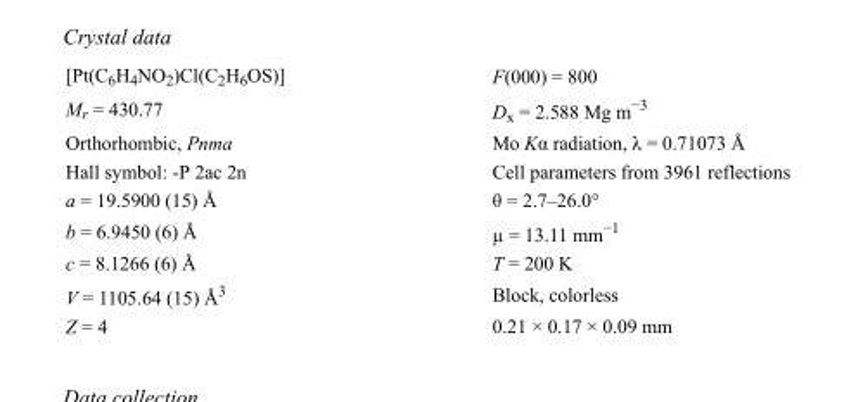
<table><tbody><tr><td>[Pt(C<sub>6</sub>H<sub>4</sub>NO<sub>2</sub>)Cl(C<sub>2</sub>H<sub>6</sub>OS)]</td><td>F(000) = 800</td></tr><tr><td>M<sub>r</sub> = 430.77</td><td>D<sub>x</sub> = 2.588 Mg m<sup>−3</sup></td></tr><tr><td>Orthorhombic, Pnma</td><td>Mo Kα radiation, λ = 0.71073 Å</td></tr><tr><td>Hall symbol: -P 2ac 2n</td><td>Cell parameters from 3961 reflections</td></tr><tr><td>a = 19.5900 (15) Å</td><td>θ = 2.7–26.0°</td></tr><tr><td>b = 6.9450 (6) Å</td><td>µ = 13.11 mm<sup>−1</sup></td></tr><tr><td>c = 8.1266 (6) Å</td><td>T = 200 K</td></tr><tr><td>V = 1105.64 (15) Å<sup>3</sup></td><td>Block, colorless</td></tr><tr><td>Z = 4</td><td>0.21 × 0.17 × 0.09 mm</td></tr></tbody></table>